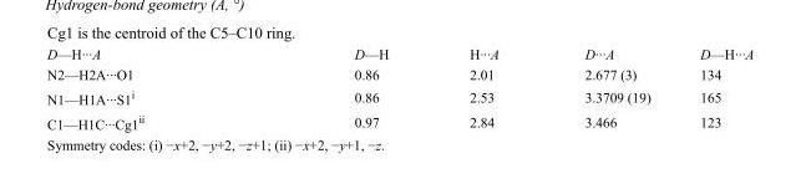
<table><tbody><tr><td>D—H···A</td><td>D—H</td><td>H···A</td><td>D···A</td><td>D—H···A</td></tr><tr><td>N2—H2A···O1</td><td>0.86</td><td>2.01</td><td>2.677 (3)</td><td>134</td></tr><tr><td>N1—H1A···S1<sup>i</sup></td><td>0.86</td><td>2.53</td><td>3.3709 (19)</td><td>165</td></tr><tr><td>C1—H1C···Cg1<sup>ii</sup></td><td>0.97</td><td>2.84</td><td>3.466</td><td>123</td></tr></tbody></table>